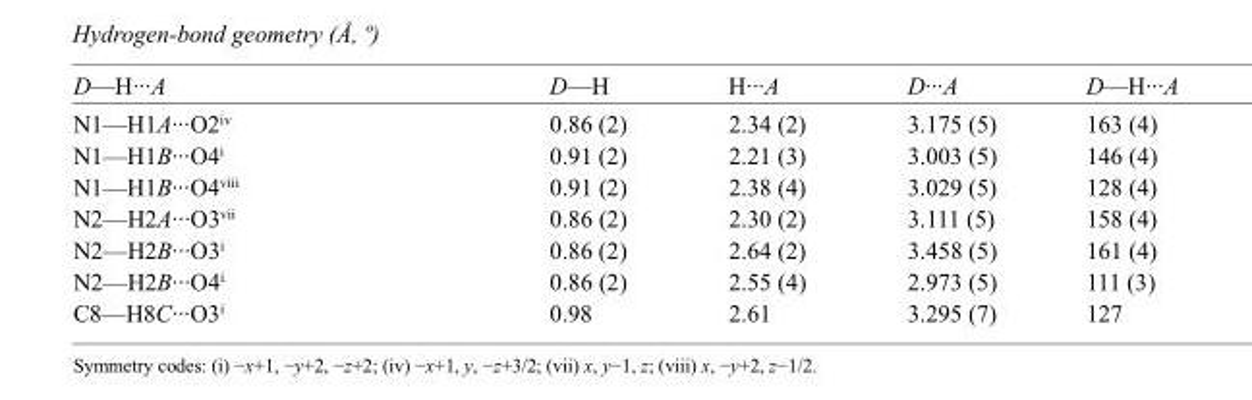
<table><tbody><tr><td>D—H···A</td><td>D—H</td><td>H···A</td><td>D···A</td><td>D—H···A</td></tr><tr><td>N1—H1A···O2<sup>iv</sup></td><td>0.86 (2)</td><td>2.34 (2)</td><td>3.175 (5)</td><td>163 (4)</td></tr><tr><td>N1—H1B···O4<sup>i</sup></td><td>0.91 (2)</td><td>2.21 (3)</td><td>3.003 (5)</td><td>146 (4)</td></tr><tr><td>N1—H1B···O4<sup>viii</sup></td><td>0.91 (2)</td><td>2.38 (4)</td><td>3.029 (5)</td><td>128 (4)</td></tr><tr><td>N2—H2A···O3<sup>vii</sup></td><td>0.86 (2)</td><td>2.30 (2)</td><td>3.111 (5)</td><td>158 (4)</td></tr><tr><td>N2—H2B···O3<sup>i</sup></td><td>0.86 (2)</td><td>2.64 (2)</td><td>3.458 (5)</td><td>161 (4)</td></tr><tr><td>N2—H2B···O4<sup>i</sup></td><td>0.86 (2)</td><td>2.55 (4)</td><td>2.973 (5)</td><td>111 (3)</td></tr><tr><td>C8—H8C···O3<sup>i</sup></td><td>0.98</td><td>2.61</td><td>3.295 (7)</td><td>127</td></tr></tbody></table>